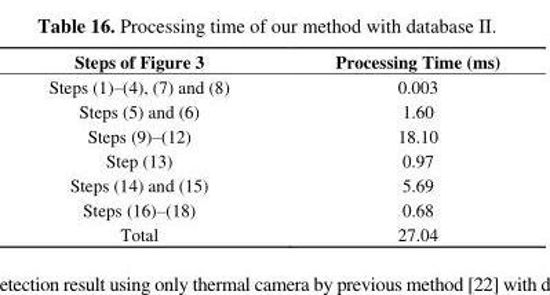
<table><thead><tr><td>Steps of Figure 3</td><td>Processing Time (ms)</td></tr></thead><tbody><tr><td>Steps (1)–(4), (7) and (8)</td><td>0.003</td></tr><tr><td>Steps (5) and (6)</td><td>1.60</td></tr><tr><td>Steps (9)–(12)</td><td>18.10</td></tr><tr><td>Step (13)</td><td>0.97</td></tr><tr><td>Steps (14) and (15)</td><td>5.69</td></tr><tr><td>Steps (16)–(18)</td><td>0.68</td></tr><tr><td>Total</td><td>27.04</td></tr></tbody></table>